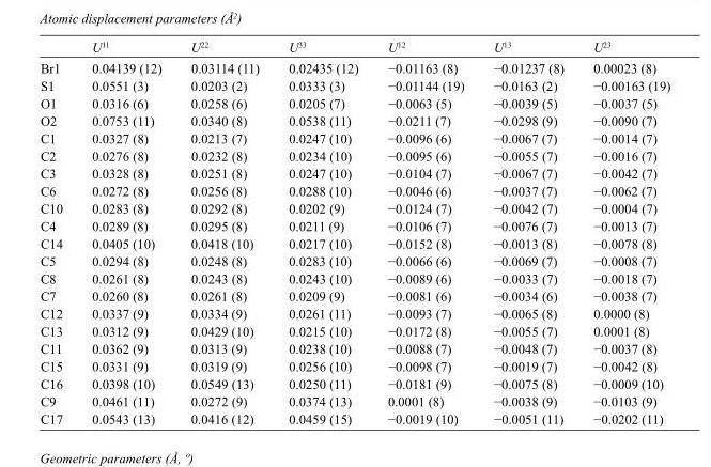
<table><thead><tr><td></td><td>U<sup>11</sup></td><td>U<sup>22</sup></td><td>U<sup>33</sup></td><td>U<sup>12</sup></td><td>U<sup>13</sup></td><td>U<sup>23</sup></td></tr></thead><tbody><tr><td>Br1</td><td>0.04139 (12)</td><td>0.03114 (11)</td><td>0.02435 (12)</td><td>−0.01163 (8)</td><td>−0.01237 (8)</td><td>0.00023 (8)</td></tr><tr><td>S1</td><td>0.0551 (3)</td><td>0.0203 (2)</td><td>0.0333 (3)</td><td>−0.01144 (19)</td><td>−0.0163 (2)</td><td>−0.00163 (19)</td></tr><tr><td>O1</td><td>0.0316 (6)</td><td>0.0258 (6)</td><td>0.0205 (7)</td><td>−0.0063 (5)</td><td>−0.0039 (5)</td><td>−0.0037 (5)</td></tr><tr><td>O2</td><td>0.0753 (11)</td><td>0.0340 (8)</td><td>0.0538 (11)</td><td>−0.0211 (7)</td><td>−0.0298 (9)</td><td>−0.0090 (7)</td></tr><tr><td>C1</td><td>0.0327 (8)</td><td>0.0213 (7)</td><td>0.0247 (10)</td><td>−0.0096 (6)</td><td>−0.0067 (7)</td><td>−0.0014 (7)</td></tr><tr><td>C2</td><td>0.0276 (8)</td><td>0.0232 (8)</td><td>0.0234 (10)</td><td>−0.0095 (6)</td><td>−0.0055 (7)</td><td>−0.0016 (7)</td></tr><tr><td>C3</td><td>0.0328 (8)</td><td>0.0251 (8)</td><td>0.0247 (10)</td><td>−0.0104 (7)</td><td>−0.0067 (7)</td><td>−0.0042 (7)</td></tr><tr><td>C6</td><td>0.0272 (8)</td><td>0.0256 (8)</td><td>0.0288 (10)</td><td>−0.0046 (6)</td><td>−0.0037 (7)</td><td>−0.0062 (7)</td></tr><tr><td>C10</td><td>0.0283 (8)</td><td>0.0292 (8)</td><td>0.0202 (9)</td><td>−0.0124 (7)</td><td>−0.0042 (7)</td><td>−0.0004 (7)</td></tr><tr><td>C4</td><td>0.0289 (8)</td><td>0.0295 (8)</td><td>0.0211 (9)</td><td>−0.0106 (7)</td><td>−0.0076 (7)</td><td>−0.0013 (7)</td></tr><tr><td>C14</td><td>0.0405 (10)</td><td>0.0418 (10)</td><td>0.0217 (10)</td><td>−0.0152 (8)</td><td>−0.0013 (8)</td><td>−0.0078 (8)</td></tr><tr><td>C5</td><td>0.0294 (8)</td><td>0.0248 (8)</td><td>0.0283 (10)</td><td>−0.0066 (6)</td><td>−0.0069 (7)</td><td>−0.0008 (7)</td></tr><tr><td>C8</td><td>0.0261 (8)</td><td>0.0243 (8)</td><td>0.0243 (10)</td><td>−0.0089 (6)</td><td>−0.0033 (7)</td><td>−0.0018 (7)</td></tr><tr><td>C7</td><td>0.0260 (8)</td><td>0.0261 (8)</td><td>0.0209 (9)</td><td>−0.0081 (6)</td><td>−0.0034 (6)</td><td>−0.0038 (7)</td></tr><tr><td>C12</td><td>0.0337 (9)</td><td>0.0334 (9)</td><td>0.0261 (11)</td><td>−0.0093 (7)</td><td>−0.0065 (8)</td><td>0.0000 (8)</td></tr><tr><td>C13</td><td>0.0312 (9)</td><td>0.0429 (10)</td><td>0.0215 (10)</td><td>−0.0172 (8)</td><td>−0.0055 (7)</td><td>0.0001 (8)</td></tr><tr><td>C11</td><td>0.0362 (9)</td><td>0.0313 (9)</td><td>0.0238 (10)</td><td>−0.0088 (7)</td><td>−0.0048 (7)</td><td>−0.0037 (8)</td></tr><tr><td>C15</td><td>0.0331 (9)</td><td>0.0319 (9)</td><td>0.0256 (10)</td><td>−0.0098 (7)</td><td>−0.0019 (7)</td><td>−0.0042 (8)</td></tr><tr><td>C16</td><td>0.0398 (10)</td><td>0.0549 (13)</td><td>0.0250 (11)</td><td>−0.0181 (9)</td><td>−0.0075 (8)</td><td>−0.0009 (10)</td></tr><tr><td>C9</td><td>0.0461 (11)</td><td>0.0272 (9)</td><td>0.0374 (13)</td><td>0.0001 (8)</td><td>−0.0038 (9)</td><td>−0.0103 (9)</td></tr><tr><td>C17</td><td>0.0543 (13)</td><td>0.0416 (12)</td><td>0.0459 (15)</td><td>−0.0019 (10)</td><td>−0.0051 (11)</td><td>−0.0202 (11)</td></tr></tbody></table>